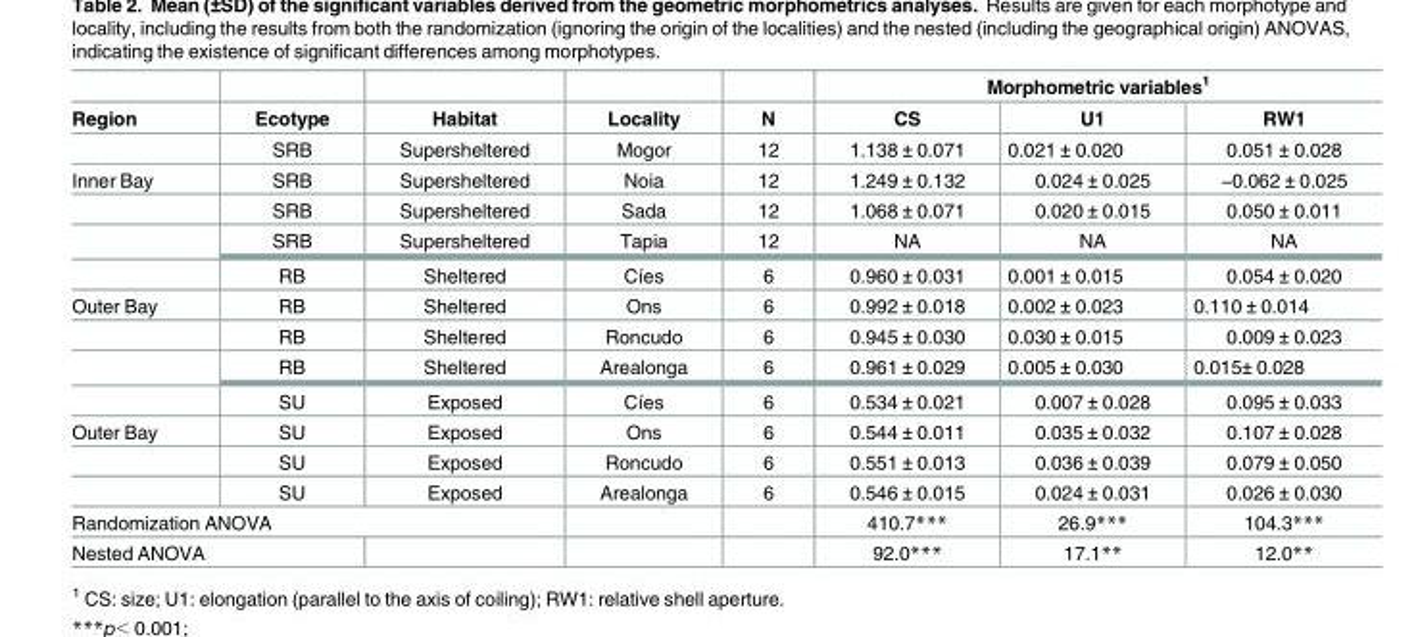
<table><thead><tr><td rowspan="2">Region</td><td rowspan="2">Ecotype</td><td rowspan="2">Habitat</td><td rowspan="2">Locality</td><td rowspan="2">N</td><td colspan="3">Morphometric variables<sup>1</sup></td></tr><tr><td>CS</td><td>U1</td><td>RW1</td></tr></thead><tbody><tr><td></td><td>SRB</td><td>Supersheltered</td><td>Mogor</td><td>12</td><td>1.138 ± 0.071</td><td>0.021 ± 0.020</td><td>0.051 ± 0.028</td></tr><tr><td rowspan="4">Inner Bay</td><td>SRB</td><td>Supersheltered</td><td>Noia</td><td>12</td><td>1.249 ± 0.132</td><td>0.024 ± 0.025</td><td>−0.062 ± 0.025</td></tr><tr><td>SRB</td><td>Supersheltered</td><td>Sada</td><td>12</td><td>1.068 ± 0.071</td><td>0.020 ± 0.015</td><td>0.050 ± 0.011</td></tr><tr><td>SRB</td><td>Supersheltered</td><td>Tapia</td><td>12</td><td>NA</td><td>NA</td><td>NA</td></tr><tr><td>RB</td><td>Sheltered</td><td>Cíes</td><td>6</td><td>0.960 ± 0.031</td><td>0.001 ± 0.015</td><td>0.054 ± 0.020</td></tr><tr><td rowspan="4">Outer Bay</td><td>RB</td><td>Sheltered</td><td>Ons</td><td>6</td><td>0.992 ± 0.018</td><td>0.002 ± 0.023</td><td>0.110 ± 0.014</td></tr><tr><td>RB</td><td>Sheltered</td><td>Roncudo</td><td>6</td><td>0.945 ± 0.030</td><td>0.030 ± 0.015</td><td>0.009 ± 0.023</td></tr><tr><td>RB</td><td>Sheltered</td><td>Arealonga</td><td>6</td><td>0.961 ± 0.029</td><td>0.005 ± 0.030</td><td>0.015± 0.028</td></tr><tr><td>SU</td><td>Exposed</td><td>Cíes</td><td>6</td><td>0.534 ± 0.021</td><td>0.007 ± 0.028</td><td>0.095 ± 0.033</td></tr><tr><td rowspan="3">Outer Bay</td><td>SU</td><td>Exposed</td><td>Ons</td><td>6</td><td>0.544 ± 0.011</td><td>0.035 ± 0.032</td><td>0.107 ± 0.028</td></tr><tr><td>SU</td><td>Exposed</td><td>Roncudo</td><td>6</td><td>0.551 ± 0.013</td><td>0.036 ± 0.039</td><td>0.079 ± 0.050</td></tr><tr><td>SU</td><td>Exposed</td><td>Arealonga</td><td>6</td><td>0.546 ± 0.015</td><td>0.024 ± 0.031</td><td>0.026 ± 0.030</td></tr><tr><td colspan="3">Randomization ANOVA</td><td></td><td></td><td>410.7***</td><td>26.9***</td><td>104.3***</td></tr><tr><td colspan="2">Nested ANOVA</td><td></td><td></td><td></td><td>92.0***</td><td>17.1**</td><td>12.0**</td></tr></tbody></table>